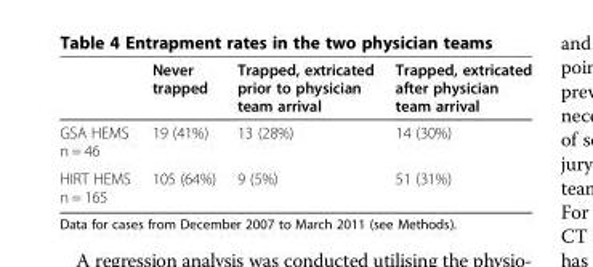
<table><thead><tr><td></td><td>Never trapped</td><td>Trapped, extricated prior to physician team arrival</td><td>Trapped, extricated after physician team arrival</td></tr></thead><tbody><tr><td>GSA HEMS n = 46</td><td>19 (41%)</td><td>13 (28%)</td><td>14 (30%)</td></tr><tr><td>HIRT HEMS n = 165</td><td>105 (64%)</td><td>9 (5%)</td><td>51 (31%)</td></tr></tbody></table>